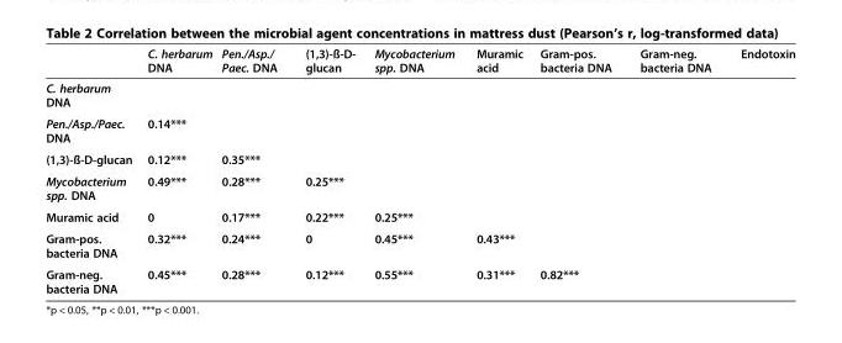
<table><thead><tr><td></td><td>C. herbarum DNA</td><td>Pen./Asp./ Paec. DNA</td><td>(1,3)-ß-D- glucan</td><td>Mycobacterium spp. DNA</td><td>Muramic acid</td><td>Gram-pos. bacteria DNA</td><td>Gram-neg. bacteria DNA</td><td>Endotoxin</td></tr></thead><tbody><tr><td colspan="9">C. herbarum DNA</td></tr><tr><td>Pen./Asp./Paec. DNA</td><td>0.14***</td><td></td><td></td><td></td><td></td><td></td><td></td><td></td></tr><tr><td>(1,3)-ß-D-glucan</td><td>0.12***</td><td>0.35***</td><td></td><td></td><td></td><td></td><td></td><td></td></tr><tr><td>Mycobacterium spp. DNA</td><td>0.49***</td><td>0.28***</td><td>0.25***</td><td></td><td></td><td></td><td></td><td></td></tr><tr><td>Muramic acid</td><td>0</td><td>0.17***</td><td>0.22***</td><td>0.25***</td><td></td><td></td><td></td><td></td></tr><tr><td>Gram-pos. bacteria DNA</td><td>0.32***</td><td>0.24***</td><td>0</td><td>0.45***</td><td>0.43***</td><td></td><td></td><td></td></tr><tr><td>Gram-neg. bacteria DNA</td><td>0.45***</td><td>0.28***</td><td>0.12***</td><td>0.55***</td><td>0.31***</td><td>0.82***</td><td></td><td></td></tr></tbody></table>